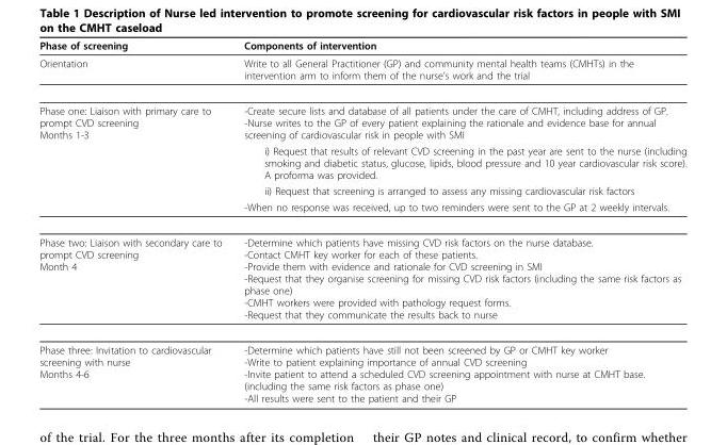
<table><thead><tr><td>Phase of screening</td><td>Components of intervention</td></tr></thead><tbody><tr><td>Orientation</td><td>Write to all General Practitioner (GP) and community mental health teams (CMHTs) in the intervention arm to inform them of the nurse’s work and the trial</td></tr><tr><td rowspan="4">Phase one: Liaison with primary care to prompt CVD screening Months 1-3</td><td>-Create secure lists and database of all patients under the care of CMHT, including address of GP. -Nurse writes to the GP of every patient explaining the rationale and evidence base for annual screening of cardiovascular risk in people with SMI</td></tr><tr><td>i) Request that results of relevant CVD screening in the past year are sent to the nurse (including smoking and diabetic status, glucose, lipids, blood pressure and 10 year cardiovascular risk score). A proforma was provided.</td></tr><tr><td>ii) Request that screening is arranged to assess any missing cardiovascular risk factors</td></tr><tr><td>-When no response was received, up to two reminders were sent to the GP at 2 weekly intervals.</td></tr><tr><td>Phase two: Liaison with secondary care to prompt CVD screening Month 4</td><td>-Determine which patients have missing CVD risk factors on the nurse database. -Contact CMHT key worker for each of these patients. -Provide them with evidence and rationale for CVD screening in SMI -Request that they organise screening for missing CVD risk factors (including the same risk factors as phase one) -CMHT workers were provided with pathology request forms. -Request that they communicate the results back to nurse</td></tr><tr><td>Phase three: Invitation to cardiovascular screening with nurse Months 4-6</td><td>-Determine which patients have still not been screened by GP or CMHT key worker -Write to patient explaining importance of annual CVD screening -Invite patient to attend a scheduled CVD screening appointment with nurse at CMHT base. (including the same risk factors as phase one) -All results were sent to the patient and their GP</td></tr></tbody></table>